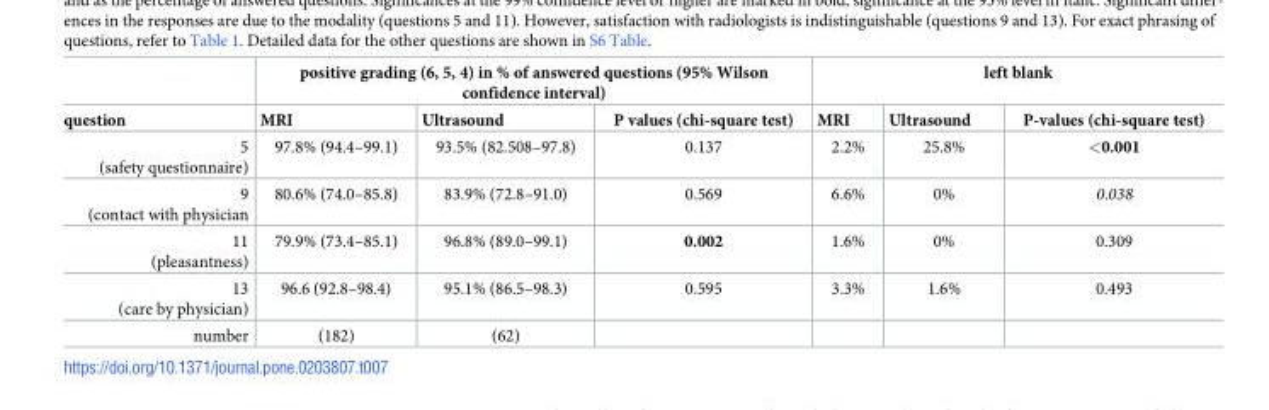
<table><thead><tr><td rowspan="2">question</td><td colspan="3">positive grading (6, 5, 4) in % of answered questions (95% Wilson confidence interval)</td><td colspan="3">left blank</td></tr><tr><td>MRI</td><td>Ultrasound</td><td>P values (chi-square test)</td><td>MRI</td><td>Ultrasound</td><td>P-values (chi-square test)</td></tr></thead><tbody><tr><td>5 (safety questionnaire)</td><td>97.8% (94.4–99.1)</td><td>93.5% (82.508–97.8)</td><td>0.137</td><td>2.2%</td><td>25.8%</td><td>&lt;0.001</td></tr><tr><td>9 (contact with physician</td><td>80.6% (74.0–85.8)</td><td>83.9% (72.8–91.0)</td><td>0.569</td><td>6.6%</td><td>0%</td><td>0.038</td></tr><tr><td>11 (pleasantness)</td><td>79.9% (73.4–85.1)</td><td>96.8% (89.0–99.1)</td><td>0.002</td><td>1.6%</td><td>0%</td><td>0.309</td></tr><tr><td>13 (care by physician)</td><td>96.6 (92.8–98.4)</td><td>95.1% (86.5–98.3)</td><td>0.595</td><td>3.3%</td><td>1.6%</td><td>0.493</td></tr><tr><td>number</td><td>(182)</td><td>(62)</td><td></td><td></td><td></td><td></td></tr></tbody></table>